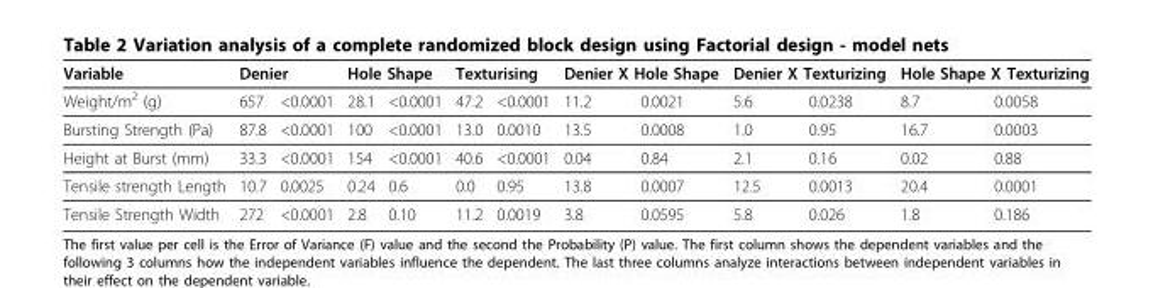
<table><thead><tr><td rowspan="2">Variable Weight/m<sup>2</sup> (g)</td><td colspan="2">Denier</td><td colspan="2">Hole Shape</td><td colspan="2">Texturising</td><td colspan="2">Denier X Hole Shape</td><td colspan="2">Denier X Texturizing</td><td colspan="2">Hole Shape X Texturizing</td></tr><tr><td>657</td><td>&lt;0.0001</td><td>28.1</td><td>&lt;0.0001</td><td>47.2</td><td>&lt;0.0001</td><td>11.2</td><td>0.0021</td><td>5.6</td><td>0.0238</td><td>8.7</td><td>0.0058</td></tr></thead><tbody><tr><td>Bursting Strength (Pa)</td><td>87.8</td><td>&lt;0.0001</td><td>100</td><td>&lt;0.0001</td><td>13.0</td><td>0.0010</td><td>13.5</td><td>0.0008</td><td>1.0</td><td>0.95</td><td>16.7</td><td>0.0003</td></tr><tr><td>Height at Burst (mm)</td><td>33.3</td><td>&lt;0.0001</td><td>154</td><td>&lt;0.0001</td><td>40.6</td><td>&lt;0.0001</td><td>0.04</td><td>0.84</td><td>2.1</td><td>0.16</td><td>0.02</td><td>0.88</td></tr><tr><td>Tensile strength Length</td><td>10.7</td><td>0.0025</td><td>0.24</td><td>0.6</td><td>0.0</td><td>0.95</td><td>13.8</td><td>0.0007</td><td>12.5</td><td>0.0013</td><td>20.4</td><td>0.0001</td></tr><tr><td>Tensile Strength Width</td><td>272</td><td>&lt;0.0001</td><td>2.8</td><td>0.10</td><td>11.2</td><td>0.0019</td><td>3.8</td><td>0.0595</td><td>5.8</td><td>0.026</td><td>1.8</td><td>0.186</td></tr></tbody></table>